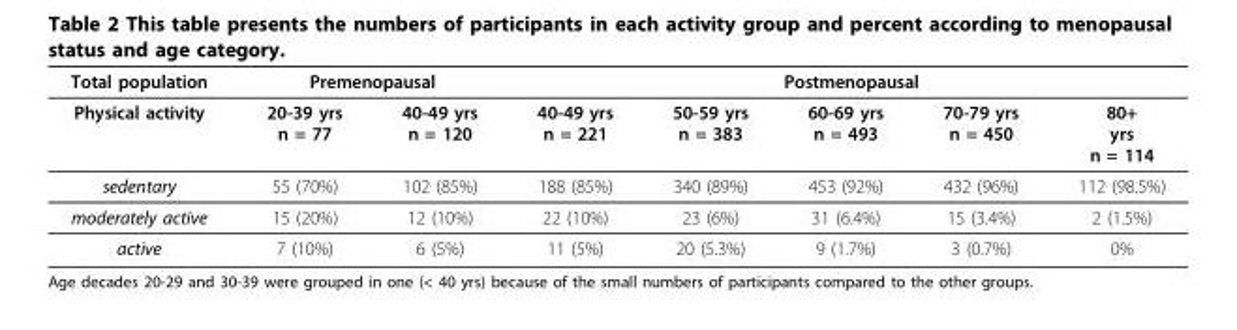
<table><thead><tr><td rowspan="2">Total population Physical activity</td><td colspan="2">Premenopausal</td><td colspan="5">Postmenopausal</td></tr><tr><td>20-39 yrs n = 77</td><td>40-49 yrs n = 120</td><td>40-49 yrs n = 221</td><td>50-59 yrs n = 383</td><td>60-69 yrs n = 493</td><td>70-79 yrs n = 450</td><td>80+ yrs n = 114</td></tr></thead><tbody><tr><td>sedentary</td><td>55 (70%)</td><td>102 (85%)</td><td>188 (85%)</td><td>340 (89%)</td><td>453 (92%)</td><td>432 (96%)</td><td>112 (98.5%)</td></tr><tr><td>moderately active</td><td>15 (20%)</td><td>12 (10%)</td><td>22 (10%)</td><td>23 (6%)</td><td>31 (6.4%)</td><td>15 (3.4%)</td><td>2 (1.5%)</td></tr><tr><td>active</td><td>7 (10%)</td><td>6 (5%)</td><td>11 (5%)</td><td>20 (5.3%)</td><td>9 (1.7%)</td><td>3 (0.7%)</td><td>0%</td></tr></tbody></table>